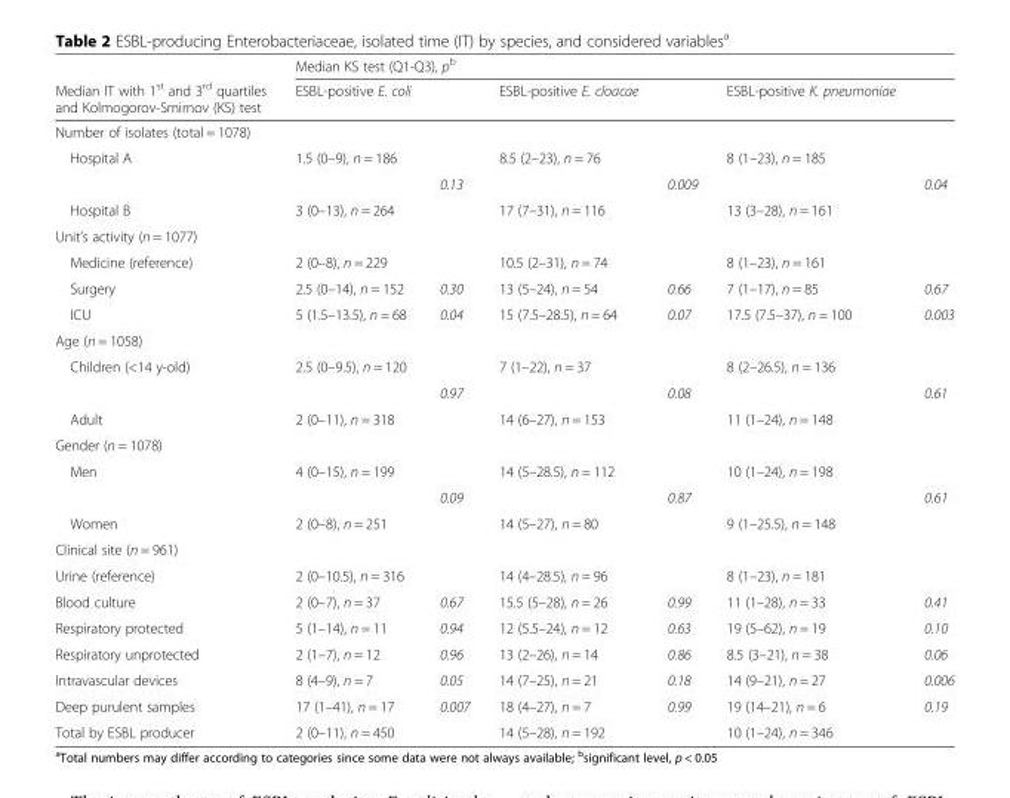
<table><thead><tr><td rowspan="2">Median IT with 1<sup>st</sup> and 3<sup>rd</sup> quartiles and Kolmogorov-Smirnov (KS) test</td><td colspan="6">Median KS test (Q1-Q3), p<sup>b</sup></td></tr><tr><td>ESBL-positive E. coli</td><td></td><td>ESBL-positive E. cloacae</td><td></td><td>ESBL-positive K. pneumoniae</td><td></td></tr></thead><tbody><tr><td colspan="7">Number of isolates (total = 1078)</td></tr><tr><td rowspan="2">Hospital A</td><td>1.5 (0–9), n = 186</td><td></td><td>8.5 (2–23), n = 76</td><td></td><td>8 (1–23), n = 185</td><td></td></tr><tr><td></td><td>0.13</td><td></td><td>0.009</td><td></td><td>0.04</td></tr><tr><td>Hospital B</td><td>3 (0–13), n = 264</td><td></td><td>17 (7–31), n = 116</td><td></td><td>13 (3–28), n = 161</td><td></td></tr><tr><td colspan="7">Unit’s activity (n = 1077)</td></tr><tr><td>Medicine (reference)</td><td>2 (0–8), n = 229</td><td></td><td>10.5 (2–31), n = 74</td><td></td><td>8 (1–23), n = 161</td><td></td></tr><tr><td>Surgery</td><td>2.5 (0–14), n = 152</td><td>0.30</td><td>13 (5–24), n = 54</td><td>0.66</td><td>7 (1–17), n = 85</td><td>0.67</td></tr><tr><td>ICU</td><td>5 (1.5–13.5), n = 68</td><td>0.04</td><td>15 (7.5–28.5), n = 64</td><td>0.07</td><td>17.5 (7.5–37), n = 100</td><td>0.003</td></tr><tr><td colspan="7">Age (n = 1058)</td></tr><tr><td rowspan="2">Children (&lt;14 y-old)</td><td>2.5 (0–9.5), n = 120</td><td></td><td>7 (1–22), n = 37</td><td></td><td>8 (2–26.5), n = 136</td><td></td></tr><tr><td></td><td>0.97</td><td></td><td>0.08</td><td></td><td>0.61</td></tr><tr><td>Adult</td><td>2 (0–11), n = 318</td><td></td><td>14 (6–27), n = 153</td><td></td><td>11 (1–24), n = 148</td><td></td></tr><tr><td colspan="7">Gender (n = 1078)</td></tr><tr><td rowspan="2">Men</td><td>4 (0–15), n = 199</td><td></td><td>14 (5–28.5), n = 112</td><td></td><td>10 (1–24), n = 198</td><td></td></tr><tr><td></td><td>0.09</td><td></td><td>0.87</td><td></td><td>0.61</td></tr><tr><td>Women</td><td>2 (0–8), n = 251</td><td></td><td>14 (5–27), n = 80</td><td></td><td>9 (1–25.5), n = 148</td><td></td></tr><tr><td colspan="7">Clinical site (n = 961)</td></tr><tr><td>Urine (reference)</td><td>2 (0–10.5), n = 316</td><td></td><td>14 (4–28.5), n = 96</td><td></td><td>8 (1–23), n = 181</td><td></td></tr><tr><td>Blood culture</td><td>2 (0–7), n = 37</td><td>0.67</td><td>15.5 (5–28), n = 26</td><td>0.99</td><td>11 (1–28), n = 33</td><td>0.41</td></tr><tr><td>Respiratory protected</td><td>5 (1–14), n = 11</td><td>0.94</td><td>12 (5.5–24), n = 12</td><td>0.63</td><td>19 (5–62), n = 19</td><td>0.10</td></tr><tr><td>Respiratory unprotected</td><td>2 (1–7), n = 12</td><td>0.96</td><td>13 (2–26), n = 14</td><td>0.86</td><td>8.5 (3–21), n = 38</td><td>0.06</td></tr><tr><td>Intravascular devices</td><td>8 (4–9), n = 7</td><td>0.05</td><td>14 (7–25), n = 21</td><td>0.18</td><td>14 (9–21), n = 27</td><td>0.006</td></tr><tr><td>Deep purulent samples</td><td>17 (1–41), n = 17</td><td>0.007</td><td>18 (4–27), n = 7</td><td>0.99</td><td>19 (14–21), n = 6</td><td>0.19</td></tr><tr><td>Total by ESBL producer</td><td>2 (0–11), n = 450</td><td></td><td>14 (5–28), n = 192</td><td></td><td>10 (1–24), n = 346</td><td></td></tr></tbody></table>